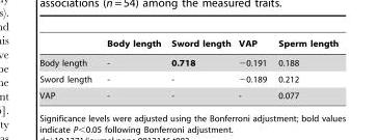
<table><thead><tr><td></td><td>Body length</td><td>Sword length</td><td>VAP</td><td>Sperm length</td></tr></thead><tbody><tr><td>Body length</td><td>-</td><td>0.718</td><td>−0.191</td><td>0.188</td></tr><tr><td>Sword length</td><td>-</td><td>-</td><td>−0.189</td><td>0.212</td></tr><tr><td>VAP</td><td>-</td><td>-</td><td>-</td><td>0.077</td></tr></tbody></table>